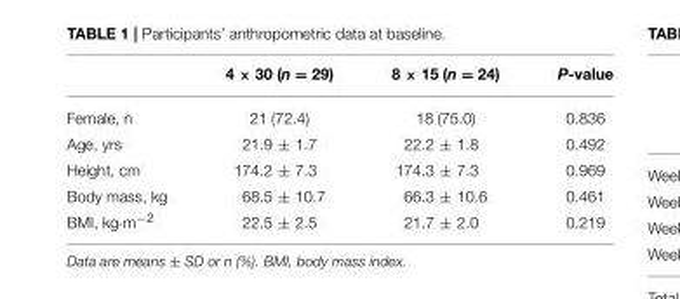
<table><thead><tr><td></td><td>4 × 30 (n = 29)</td><td>8 × 15 (n = 24)</td><td>P-value</td></tr></thead><tbody><tr><td>Female, n</td><td>21 (72.4)</td><td>18 (75.0)</td><td>0.836</td></tr><tr><td>Age, yrs</td><td>21.9 ± 1.7</td><td>22.2 ± 1.8</td><td>0.492</td></tr><tr><td>Height, cm</td><td>174.2 ± 7.3</td><td>174.3 ± 7.3</td><td>0.969</td></tr><tr><td>Body mass, kg</td><td>68.5 ± 10.7</td><td>66.3 ± 10.6</td><td>0.461</td></tr><tr><td>BMI, kg·m<sup>−2</sup></td><td>22.5 ± 2.5</td><td>21.7 ± 2.0</td><td>0.219</td></tr></tbody></table>